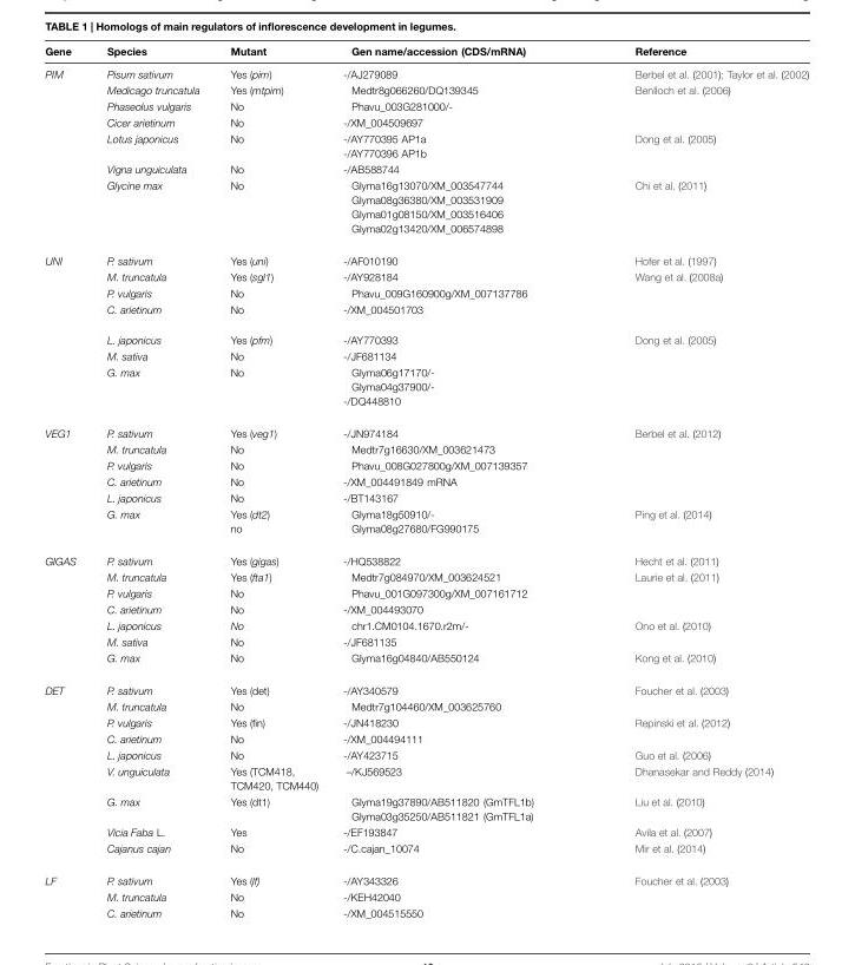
<table><thead><tr><td>Gene</td><td>Species</td><td>Mutant</td><td>Gen name/accession (CDS/mRNA)</td><td>Reference</td></tr></thead><tbody><tr><td rowspan="7">PIM</td><td>Pisum sativum</td><td>Yes (pim)</td><td>-/AJ279089</td><td>Berbel et al. (2001); Taylor et al. (2002)</td></tr><tr><td>Medicago truncatula</td><td>Yes (mtpim)</td><td>Medtr8g066260/DQ139345</td><td>Benlloch et al. (2006)</td></tr><tr><td>Phaseolus vulgaris</td><td>No</td><td>Phavu_003G281000/-</td><td></td></tr><tr><td>Cicer arietinum</td><td>No</td><td>-/XM_004509697</td><td></td></tr><tr><td>Lotus japonicus</td><td>No</td><td>-/AY770395 AP1a -/AY770396 AP1b</td><td>Dong et al. (2005)</td></tr><tr><td>Vigna unguiculata</td><td>No</td><td>-/AB588744</td><td></td></tr><tr><td>Glycine max</td><td>No</td><td>Glyma16g13070/XM_003547744 Glyma08g36380/XM_003531909 Glyma01g08150/XM_003516406 Glyma02g13420/XM_006574898</td><td>Chi et al. (2011)</td></tr><tr><td rowspan="7">UNI</td><td>P. sativum</td><td>Yes (uni)</td><td>-/AF010190</td><td>Hofer et al. (1997)</td></tr><tr><td>M. truncatula</td><td>Yes (sgl1)</td><td>-/AY928184</td><td>Wang et al. (2008a)</td></tr><tr><td>P. vulgaris</td><td>No</td><td>Phavu_009G160900g/XM_007137786</td><td></td></tr><tr><td>C. arietinum</td><td>No</td><td>-/XM_004501703</td><td></td></tr><tr><td>L. japonicus</td><td>Yes (pfm)</td><td>-/AY770393</td><td>Dong et al. (2005)</td></tr><tr><td>M. sativa</td><td>No</td><td>-/JF681134</td><td></td></tr><tr><td>G. max</td><td>No</td><td>Glyma06g17170/- Glyma04g37900/- -/DQ448810</td><td></td></tr><tr><td rowspan="6">VEG1</td><td>P. sativum</td><td>Yes (veg1)</td><td>-/JN974184</td><td>Berbel et al. (2012)</td></tr><tr><td>M. truncatula</td><td>No</td><td>Medtr7g16630/XM_003621473</td><td></td></tr><tr><td>P. vulgaris</td><td>No</td><td>Phavu_008G027800g/XM_007139357</td><td></td></tr><tr><td>C. arietinum</td><td>No</td><td>-/XM_004491849 mRNA</td><td></td></tr><tr><td>L. japonicus</td><td>No</td><td>-/BT143167</td><td></td></tr><tr><td>G. max</td><td>Yes (dt2) no</td><td>Glyma18g50910/- Glyma08g27680/FG990175</td><td>Ping et al. (2014)</td></tr><tr><td rowspan="7">GIGAS</td><td>P. sativum</td><td>Yes (gigas)</td><td>-/HQ538822</td><td>Hecht et al. (2011)</td></tr><tr><td>M. truncatula</td><td>Yes (fta1)</td><td>Medtr7g084970/XM_003624521</td><td>Laurie et al. (2011)</td></tr><tr><td>P. vulgaris</td><td>No</td><td>Phavu_001G097300g/XM_007161712</td><td></td></tr><tr><td>C. arietinum</td><td>No</td><td>-/XM_004493070</td><td></td></tr><tr><td>L. japonicus</td><td>No</td><td>chr1.CM0104.1670.r2m/-</td><td>Ono et al. (2010)</td></tr><tr><td>M. sativa</td><td>No</td><td>-/JF681135</td><td></td></tr><tr><td>G. max</td><td>No</td><td>Glyma16g04840/AB550124</td><td>Kong et al. (2010)</td></tr><tr><td rowspan="9">DET</td><td>P. sativum</td><td>Yes (det)</td><td>-/AY340579</td><td>Foucher et al. (2003)</td></tr><tr><td>M. truncatula</td><td>No</td><td>Medtr7g104460/XM_003625760</td><td></td></tr><tr><td>P. vulgaris</td><td>Yes (fin)</td><td>-/JN418230</td><td>Repinski et al. (2012)</td></tr><tr><td>C. arietinum</td><td>No</td><td>-/XM_004494111</td><td></td></tr><tr><td>L. japonicus</td><td>No</td><td>-/AY423715</td><td>Guo et al. (2006)</td></tr><tr><td>V. unguiculata</td><td>Yes (TCM418, TCM420, TCM440)</td><td>–/KJ569523</td><td>Dhanasekar and Reddy (2014)</td></tr><tr><td>G. max</td><td>Yes (dt1)</td><td>Glyma19g37890/AB511820 (GmTFL1b) Glyma03g35250/AB511821 (GmTFL1a)</td><td>Liu et al. (2010)</td></tr><tr><td>Vicia Faba L.</td><td>Yes</td><td>-/EF193847</td><td>Avila et al. (2007)</td></tr><tr><td>Cajanus cajan</td><td>No</td><td>-/C.cajan_10074</td><td>Mir et al. (2014)</td></tr><tr><td rowspan="3">LF</td><td>P. sativum</td><td>Yes (lf)</td><td>-/AY343326</td><td>Foucher et al. (2003)</td></tr><tr><td>M. truncatula</td><td>No</td><td>-/KEH42040</td><td></td></tr><tr><td>C. arietinum</td><td>No</td><td>-/XM_004515550</td><td></td></tr></tbody></table>